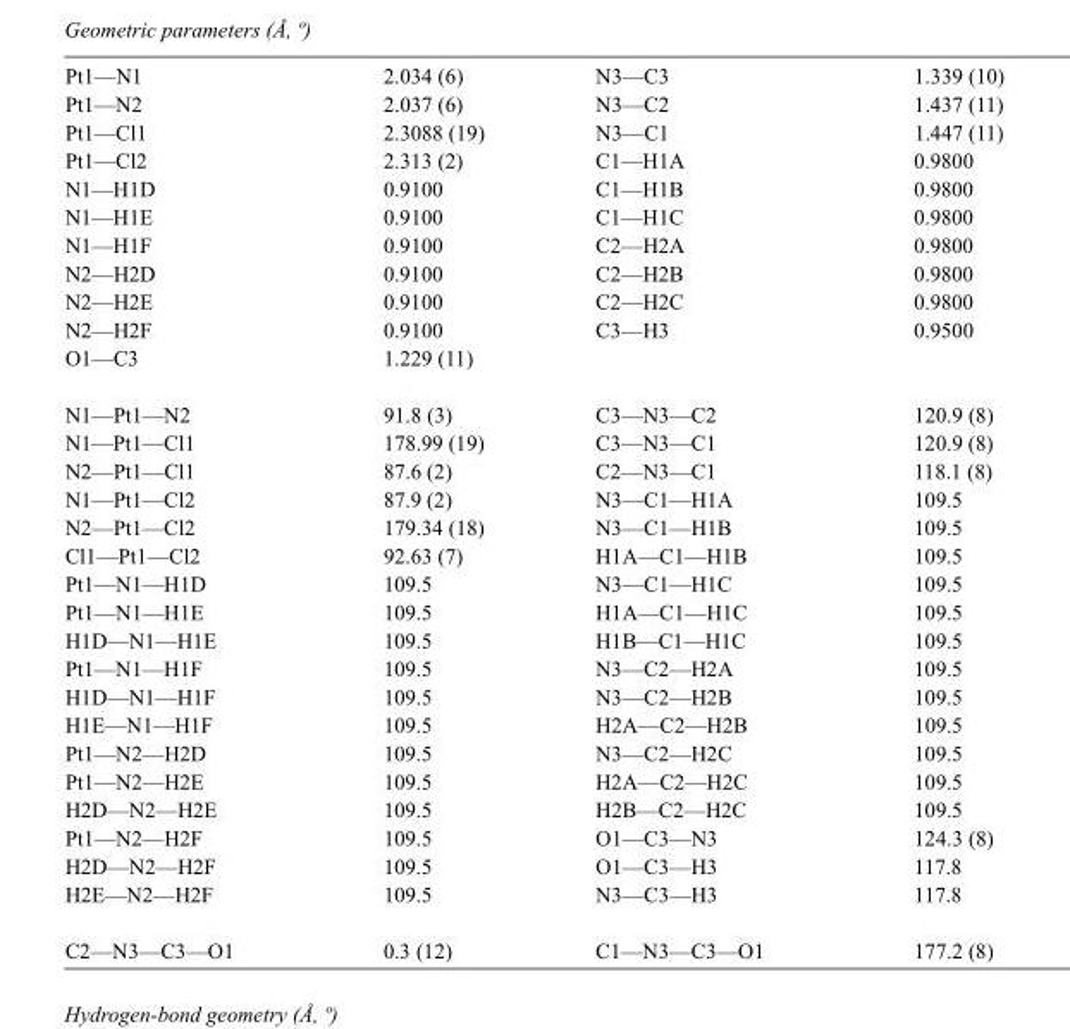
<table><tbody><tr><td>Pt1—N1</td><td>2.034 (6)</td><td>N3—C3</td><td>1.339 (10)</td></tr><tr><td>Pt1—N2</td><td>2.037 (6)</td><td>N3—C2</td><td>1.437 (11)</td></tr><tr><td>Pt1—Cl1</td><td>2.3088 (19)</td><td>N3—C1</td><td>1.447 (11)</td></tr><tr><td>Pt1—Cl2</td><td>2.313 (2)</td><td>C1—H1A</td><td>0.9800</td></tr><tr><td>N1—H1D</td><td>0.9100</td><td>C1—H1B</td><td>0.9800</td></tr><tr><td>N1—H1E</td><td>0.9100</td><td>C1—H1C</td><td>0.9800</td></tr><tr><td>N1—H1F</td><td>0.9100</td><td>C2—H2A</td><td>0.9800</td></tr><tr><td>N2—H2D</td><td>0.9100</td><td>C2—H2B</td><td>0.9800</td></tr><tr><td>N2—H2E</td><td>0.9100</td><td>C2—H2C</td><td>0.9800</td></tr><tr><td>N2—H2F</td><td>0.9100</td><td>C3—H3</td><td>0.9500</td></tr><tr><td>O1—C3</td><td>1.229 (11)</td><td></td><td></td></tr><tr><td>N1—Pt1—N2</td><td>91.8 (3)</td><td>C3—N3—C2</td><td>120.9 (8)</td></tr><tr><td>N1—Pt1—Cl1</td><td>178.99 (19)</td><td>C3—N3—C1</td><td>120.9 (8)</td></tr><tr><td>N2—Pt1—Cl1</td><td>87.6 (2)</td><td>C2—N3—C1</td><td>118.1 (8)</td></tr><tr><td>N1—Pt1—Cl2</td><td>87.9 (2)</td><td>N3—C1—H1A</td><td>109.5</td></tr><tr><td>N2—Pt1—Cl2</td><td>179.34 (18)</td><td>N3—C1—H1B</td><td>109.5</td></tr><tr><td>Cl1—Pt1—Cl2</td><td>92.63 (7)</td><td>H1A—C1—H1B</td><td>109.5</td></tr><tr><td>Pt1—N1—H1D</td><td>109.5</td><td>N3—C1—H1C</td><td>109.5</td></tr><tr><td>Pt1—N1—H1E</td><td>109.5</td><td>H1A—C1—H1C</td><td>109.5</td></tr><tr><td>H1D—N1—H1E</td><td>109.5</td><td>H1B—C1—H1C</td><td>109.5</td></tr><tr><td>Pt1—N1—H1F</td><td>109.5</td><td>N3—C2—H2A</td><td>109.5</td></tr><tr><td>H1D—N1—H1F</td><td>109.5</td><td>N3—C2—H2B</td><td>109.5</td></tr><tr><td>H1E—N1—H1F</td><td>109.5</td><td>H2A—C2—H2B</td><td>109.5</td></tr><tr><td>Pt1—N2—H2D</td><td>109.5</td><td>N3—C2—H2C</td><td>109.5</td></tr><tr><td>Pt1—N2—H2E</td><td>109.5</td><td>H2A—C2—H2C</td><td>109.5</td></tr><tr><td>H2D—N2—H2E</td><td>109.5</td><td>H2B—C2—H2C</td><td>109.5</td></tr><tr><td>Pt1—N2—H2F</td><td>109.5</td><td>O1—C3—N3</td><td>124.3 (8)</td></tr><tr><td>H2D—N2—H2F</td><td>109.5</td><td>O1—C3—H3</td><td>117.8</td></tr><tr><td>H2E—N2—H2F</td><td>109.5</td><td>N3—C3—H3</td><td>117.8</td></tr><tr><td>C2—N3—C3—O1</td><td>0.3 (12)</td><td>C1—N3—C3—O1</td><td>177.2 (8)</td></tr></tbody></table>